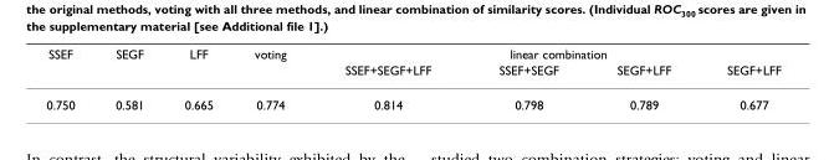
<table><thead><tr><td rowspan="2">SSEF</td><td rowspan="2">SEGF</td><td rowspan="2">LFF</td><td rowspan="2">voting</td><td colspan="4">linear combination</td></tr><tr><td>SSEF+SEGF+LFF</td><td>SSEF+SEGF</td><td>SEGF+LFF</td><td>SEGF+LFF</td></tr></thead><tbody><tr><td>0.750</td><td>0.581</td><td>0.665</td><td>0.774</td><td>0.814</td><td>0.798</td><td>0.789</td><td>0.677</td></tr></tbody></table>